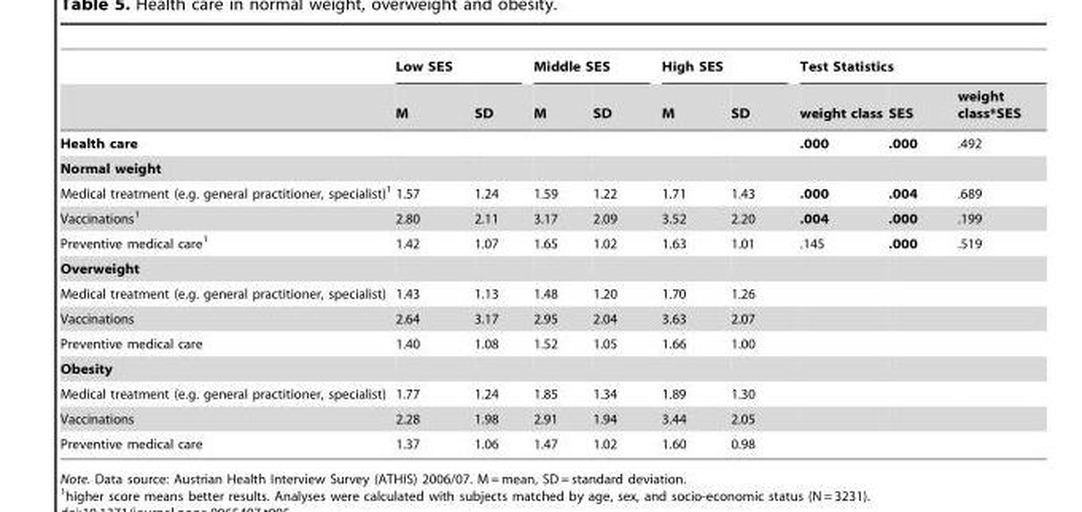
<table><thead><tr><td rowspan="2"></td><td colspan="2">Low SES</td><td colspan="2">Middle SES</td><td colspan="2">High SES</td><td colspan="3">Test Statistics</td></tr><tr><td>M</td><td>SD</td><td>M</td><td>SD</td><td>M</td><td>SD</td><td>weight class</td><td>SES</td><td>weight class*SES</td></tr></thead><tbody><tr><td>Health care</td><td></td><td></td><td></td><td></td><td></td><td></td><td>.000</td><td>.000</td><td>.492</td></tr><tr><td colspan="10">Normal weight</td></tr><tr><td>Medical treatment (e.g. general practitioner, specialist)<sup>1</sup></td><td>1.57</td><td>1.24</td><td>1.59</td><td>1.22</td><td>1.71</td><td>1.43</td><td>.000</td><td>.004</td><td>.689</td></tr><tr><td>Vaccinations<sup>1</sup></td><td>2.80</td><td>2.11</td><td>3.17</td><td>2.09</td><td>3.52</td><td>2.20</td><td>.004</td><td>.000</td><td>.199</td></tr><tr><td>Preventive medical care<sup>1</sup></td><td>1.42</td><td>1.07</td><td>1.65</td><td>1.02</td><td>1.63</td><td>1.01</td><td>.145</td><td>.000</td><td>.519</td></tr><tr><td colspan="10">Overweight</td></tr><tr><td>Medical treatment (e.g. general practitioner, specialist)</td><td>1.43</td><td>1.13</td><td>1.48</td><td>1.20</td><td>1.70</td><td>1.26</td><td></td><td></td><td></td></tr><tr><td>Vaccinations</td><td>2.64</td><td>3.17</td><td>2.95</td><td>2.04</td><td>3.63</td><td>2.07</td><td></td><td></td><td></td></tr><tr><td>Preventive medical care</td><td>1.40</td><td>1.08</td><td>1.52</td><td>1.05</td><td>1.66</td><td>1.00</td><td></td><td></td><td></td></tr><tr><td colspan="10">Obesity</td></tr><tr><td>Medical treatment (e.g. general practitioner, specialist)</td><td>1.77</td><td>1.24</td><td>1.85</td><td>1.34</td><td>1.89</td><td>1.30</td><td></td><td></td><td></td></tr><tr><td>Vaccinations</td><td>2.28</td><td>1.98</td><td>2.91</td><td>1.94</td><td>3.44</td><td>2.05</td><td></td><td></td><td></td></tr><tr><td>Preventive medical care</td><td>1.37</td><td>1.06</td><td>1.47</td><td>1.02</td><td>1.60</td><td>0.98</td><td></td><td></td><td></td></tr></tbody></table>